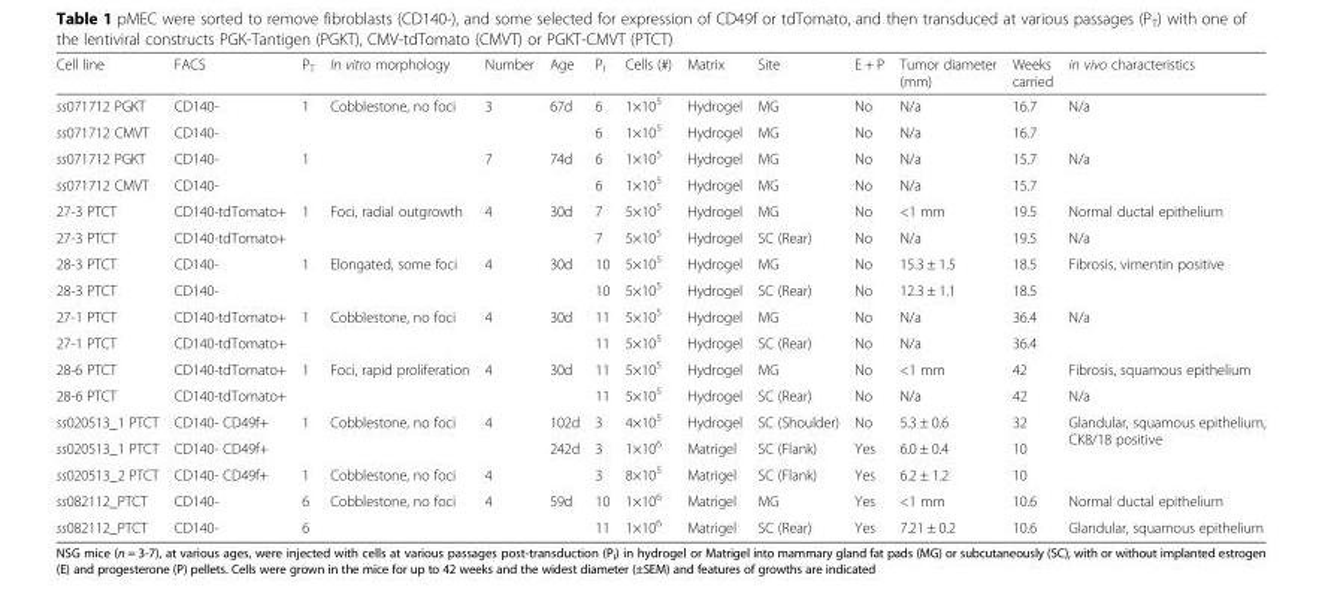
<table><thead><tr><td>Cell line</td><td>FACS</td><td>P<sub>T</sub></td><td>In vitro morphology</td><td>Number</td><td>Age</td><td>P<sub>I</sub></td><td>Cells (#)</td><td>Matrix</td><td>Site</td><td>E + P</td><td>Tumor diameter (mm)</td><td>Weeks carried</td><td>in vivo characteristics</td></tr></thead><tbody><tr><td>ss071712 PGKT</td><td>CD140-</td><td rowspan="2">1</td><td rowspan="4">Cobblestone, no foci</td><td rowspan="2">3</td><td rowspan="2">67d</td><td>6</td><td>1×10<sup>5</sup></td><td>Hydrogel</td><td>MG</td><td>No</td><td>N/a</td><td>16.7</td><td rowspan="2">N/a</td></tr><tr><td>ss071712 CMVT</td><td>CD140-</td><td>6</td><td>1×10<sup>5</sup></td><td>Hydrogel</td><td>MG</td><td>No</td><td>N/a</td><td>16.7</td></tr><tr><td>ss071712 PGKT</td><td>CD140-</td><td rowspan="2">1</td><td rowspan="2">7</td><td rowspan="2">74d</td><td>6</td><td>1×10<sup>5</sup></td><td>Hydrogel</td><td>MG</td><td>No</td><td>N/a</td><td>15.7</td><td rowspan="2">N/a</td></tr><tr><td>ss071712 CMVT</td><td>CD140-</td><td>6</td><td>1×10<sup>5</sup></td><td>Hydrogel</td><td>MG</td><td>No</td><td>N/a</td><td>15.7</td></tr><tr><td>27-3 PTCT</td><td>CD140-tdTomato+</td><td rowspan="2">1</td><td rowspan="2">Foci, radial outgrowth</td><td rowspan="2">4</td><td rowspan="2">30d</td><td>7</td><td>5×10<sup>5</sup></td><td>Hydrogel</td><td>MG</td><td>No</td><td>&lt;1 mm</td><td>19.5</td><td>Normal ductal epithelium</td></tr><tr><td>27-3 PTCT</td><td>CD140-tdTomato+</td><td>7</td><td>5×10<sup>5</sup></td><td>Hydrogel</td><td>SC (Rear)</td><td>No</td><td>N/a</td><td>19.5</td><td>N/a</td></tr><tr><td>28-3 PTCT</td><td>CD140-</td><td rowspan="2">1</td><td rowspan="2">Elongated, some foci</td><td rowspan="2">4</td><td rowspan="2">30d</td><td>10</td><td>5×10<sup>5</sup></td><td>Hydrogel</td><td>MG</td><td>No</td><td>15.3 ± 1.5</td><td>18.5</td><td rowspan="2">Fibrosis, vimentin positive</td></tr><tr><td>28-3 PTCT</td><td>CD140-</td><td>10</td><td>5×10<sup>5</sup></td><td>Hydrogel</td><td>SC (Rear)</td><td>No</td><td>12.3 ± 1.1</td><td>18.5</td></tr><tr><td>27-1 PTCT</td><td>CD140-tdTomato+</td><td rowspan="2">1</td><td rowspan="2">Cobblestone, no foci</td><td rowspan="2">4</td><td rowspan="2">30d</td><td>11</td><td>5×10<sup>5</sup></td><td>Hydrogel</td><td>MG</td><td>No</td><td>N/a</td><td>36.4</td><td rowspan="2">N/a</td></tr><tr><td>27-1 PTCT</td><td>CD140-tdTomato+</td><td>11</td><td>5×10<sup>5</sup></td><td>Hydrogel</td><td>SC (Rear)</td><td>No</td><td>N/a</td><td>36.4</td></tr><tr><td>28-6 PTCT</td><td>CD140-tdTomato+</td><td rowspan="2">1</td><td rowspan="2">Foci, rapid proliferation</td><td rowspan="2">4</td><td rowspan="2">30d</td><td>11</td><td>5×10<sup>5</sup></td><td>Hydrogel</td><td>MG</td><td>No</td><td>&lt;1 mm</td><td>42</td><td>Fibrosis, squamous epithelium</td></tr><tr><td>28-6 PTCT</td><td>CD140-tdTomato+</td><td>11</td><td>5×10<sup>5</sup></td><td>Hydrogel</td><td>SC (Rear)</td><td>No</td><td>N/a</td><td>42</td><td>N/a</td></tr><tr><td>ss020513_1 PTCT</td><td>CD140- CD49f+</td><td rowspan="2">1</td><td rowspan="2">Cobblestone, no foci</td><td rowspan="2">4</td><td>102d</td><td>3</td><td>4×10<sup>5</sup></td><td>Hydrogel</td><td>SC (Shoulder)</td><td>No</td><td>5.3 ± 0.6</td><td>32</td><td rowspan="3">Glandular, squamous epithelium, CK8/18 positive</td></tr><tr><td>ss020513_1 PTCT</td><td>CD140- CD49f+</td><td rowspan="2">242d</td><td>3</td><td>1×10<sup>6</sup></td><td>Matrigel</td><td>SC (Flank)</td><td>Yes</td><td>6.0 ± 0.4</td><td>10</td></tr><tr><td>ss020513_2 PTCT</td><td>CD140- CD49f+</td><td>1</td><td>Cobblestone, no foci</td><td>4</td><td>3</td><td>8×10<sup>5</sup></td><td>Matrigel</td><td>SC (Flank)</td><td>Yes</td><td>6.2 ± 1.2</td><td>10</td></tr><tr><td>ss082112_PTCT</td><td>CD140-</td><td>6</td><td rowspan="2">Cobblestone, no foci</td><td rowspan="2">4</td><td rowspan="2">59d</td><td>10</td><td>1×10<sup>6</sup></td><td>Matrigel</td><td>MG</td><td>Yes</td><td>&lt;1 mm</td><td>10.6</td><td>Normal ductal epithelium</td></tr><tr><td>ss082112_PTCT</td><td>CD140-</td><td>6</td><td>11</td><td>1×10<sup>6</sup></td><td>Matrigel</td><td>SC (Rear)</td><td>Yes</td><td>7.21 ± 0.2</td><td>10.6</td><td>Glandular, squamous epithelium</td></tr></tbody></table>